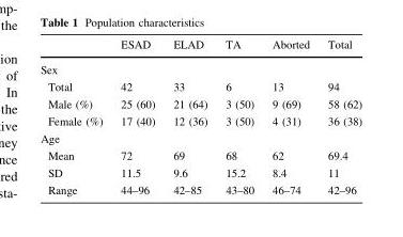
<table><thead><tr><td></td><td>ESAD</td><td>ELAD</td><td>TA</td><td>Aborted</td><td>Total</td></tr></thead><tbody><tr><td colspan="6">Sex</td></tr><tr><td>Total</td><td>42</td><td>33</td><td>6</td><td>13</td><td>94</td></tr><tr><td>Male (%)</td><td>25 (60)</td><td>21 (64)</td><td>3 (50)</td><td>9 (69)</td><td>58 (62)</td></tr><tr><td>Female (%)</td><td>17 (40)</td><td>12 (36)</td><td>3 (50)</td><td>4 (31)</td><td>36 (38)</td></tr><tr><td colspan="6">Age</td></tr><tr><td>Mean</td><td>72</td><td>69</td><td>68</td><td>62</td><td>69.4</td></tr><tr><td>SD</td><td>11.5</td><td>9.6</td><td>15.2</td><td>8.4</td><td>11</td></tr><tr><td>Range</td><td>44–96</td><td>42–85</td><td>43–80</td><td>46–74</td><td>42–96</td></tr></tbody></table>